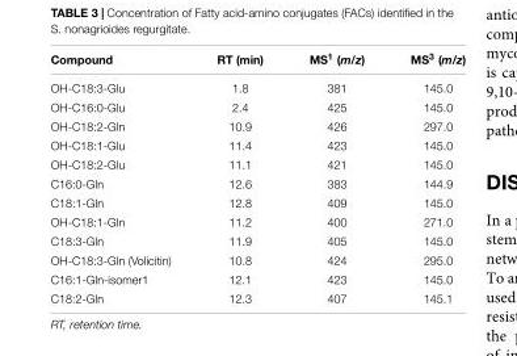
<table><thead><tr><td>Compound</td><td>RT (min)</td><td>MS<sup>1</sup> (m/z)</td><td>MS<sup>3</sup> (m/z)</td></tr></thead><tbody><tr><td>OH-C18:3-Glu</td><td>1.8</td><td>381</td><td>145.0</td></tr><tr><td>OH-C16:0-Glu</td><td>2.4</td><td>425</td><td>145.0</td></tr><tr><td>OH-C18:2-Gln</td><td>10.9</td><td>426</td><td>297.0</td></tr><tr><td>OH-C18:1-Glu</td><td>11.4</td><td>423</td><td>145.0</td></tr><tr><td>OH-C18:2-Glu</td><td>11.1</td><td>421</td><td>145.0</td></tr><tr><td>C16:0-Gln</td><td>12.6</td><td>383</td><td>144.9</td></tr><tr><td>C18:1-Gln</td><td>12.8</td><td>409</td><td>145.0</td></tr><tr><td>OH-C18:1-Gln</td><td>11.2</td><td>400</td><td>271.0</td></tr><tr><td>C18:3-Gln</td><td>11.9</td><td>405</td><td>145.0</td></tr><tr><td>OH-C18:3-Gln (Volicitin)</td><td>10.8</td><td>424</td><td>295.0</td></tr><tr><td>C16:1-Gln-isomer1</td><td>12.1</td><td>423</td><td>145.0</td></tr><tr><td>C18:2-Gln</td><td>12.3</td><td>407</td><td>145.1</td></tr></tbody></table>